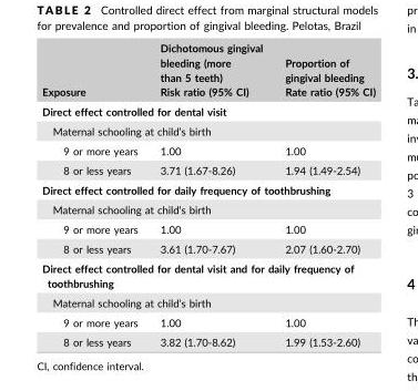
<table><thead><tr><td rowspan="2">Exposure</td><td rowspan="2">Dichotomous gingival bleeding (more than 5 teeth) Risk ratio (95% CI)</td><td rowspan="2">Proportion of gingival bleeding Rate ratio (95% CI)</td></tr><tr></tr></thead><tbody><tr><td colspan="3">Direct effect controlled for dental visit</td></tr><tr><td colspan="3">Maternal schooling at child’s birth</td></tr><tr><td>9 or more years</td><td>1.00</td><td>1.00</td></tr><tr><td>8 or less years</td><td>3.71 (1.67-8.26)</td><td>1.94 (1.49-2.54)</td></tr><tr><td colspan="3">Direct effect controlled for daily frequency of toothbrushing</td></tr><tr><td colspan="3">Maternal schooling at child’s birth</td></tr><tr><td>9 or more years</td><td>1.00</td><td>1.00</td></tr><tr><td>8 or less years</td><td>3.61 (1.70-7.67)</td><td>2.07 (1.60-2.70)</td></tr><tr><td colspan="3">Direct effect controlled for dental visit and for daily frequency of toothbrushing</td></tr><tr><td colspan="3">Maternal schooling at child’s birth</td></tr><tr><td>9 or more years</td><td>1.00</td><td>1.00</td></tr><tr><td>8 or less years</td><td>3.82 (1.70-8.62)</td><td>1.99 (1.53-2.60)</td></tr></tbody></table>